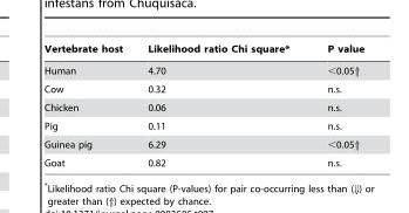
<table><thead><tr><td>Vertebrate host</td><td>Likelihood ratio Chi square*</td><td>P value</td></tr></thead><tbody><tr><td>Human</td><td>4.70</td><td>&lt;0.05⇑</td></tr><tr><td>Cow</td><td>0.32</td><td>n.s.</td></tr><tr><td>Chicken</td><td>0.06</td><td>n.s.</td></tr><tr><td>Pig</td><td>0.11</td><td>n.s.</td></tr><tr><td>Guinea pig</td><td>6.29</td><td>&lt;0.05⇑</td></tr><tr><td>Goat</td><td>0.82</td><td>n.s.</td></tr></tbody></table>